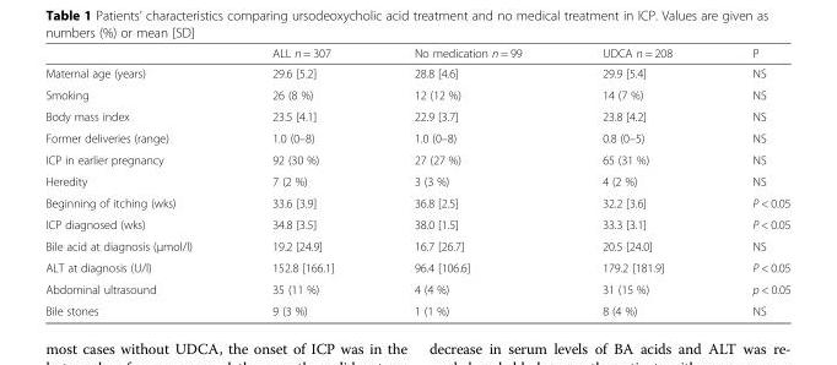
<table><thead><tr><td></td><td>ALL n = 307</td><td>No medication n = 99</td><td>UDCA n = 208</td><td>P</td></tr></thead><tbody><tr><td>Maternal age (years)</td><td>29.6 [5.2]</td><td>28.8 [4.6]</td><td>29.9 [5.4]</td><td>NS</td></tr><tr><td>Smoking</td><td>26 (8 %)</td><td>12 (12 %)</td><td>14 (7 %)</td><td>NS</td></tr><tr><td>Body mass index</td><td>23.5 [4.1]</td><td>22.9 [3.7]</td><td>23.8 [4.2]</td><td>NS</td></tr><tr><td>Former deliveries (range)</td><td>1.0 (0–8)</td><td>1.0 (0–8)</td><td>0.8 (0–5)</td><td>NS</td></tr><tr><td>ICP in earlier pregnancy</td><td>92 (30 %)</td><td>27 (27 %)</td><td>65 (31 %)</td><td>NS</td></tr><tr><td>Heredity</td><td>7 (2 %)</td><td>3 (3 %)</td><td>4 (2 %)</td><td>NS</td></tr><tr><td>Beginning of itching (wks)</td><td>33.6 [3.9]</td><td>36.8 [2.5]</td><td>32.2 [3.6]</td><td>P &lt; 0.05</td></tr><tr><td>ICP diagnosed (wks)</td><td>34.8 [3.5]</td><td>38.0 [1.5]</td><td>33.3 [3.1]</td><td>P &lt; 0.05</td></tr><tr><td>Bile acid at diagnosis (μmol/l)</td><td>19.2 [24.9]</td><td>16.7 [26.7]</td><td>20.5 [24.0]</td><td>NS</td></tr><tr><td>ALT at diagnosis (U/l)</td><td>152.8 [166.1]</td><td>96.4 [106.6]</td><td>179.2 [181.9]</td><td>P &lt; 0.05</td></tr><tr><td>Abdominal ultrasound</td><td>35 (11 %)</td><td>4 (4 %)</td><td>31 (15 %)</td><td>p &lt; 0.05</td></tr><tr><td>Bile stones</td><td>9 (3 %)</td><td>1 (1 %)</td><td>8 (4 %)</td><td>NS</td></tr></tbody></table>